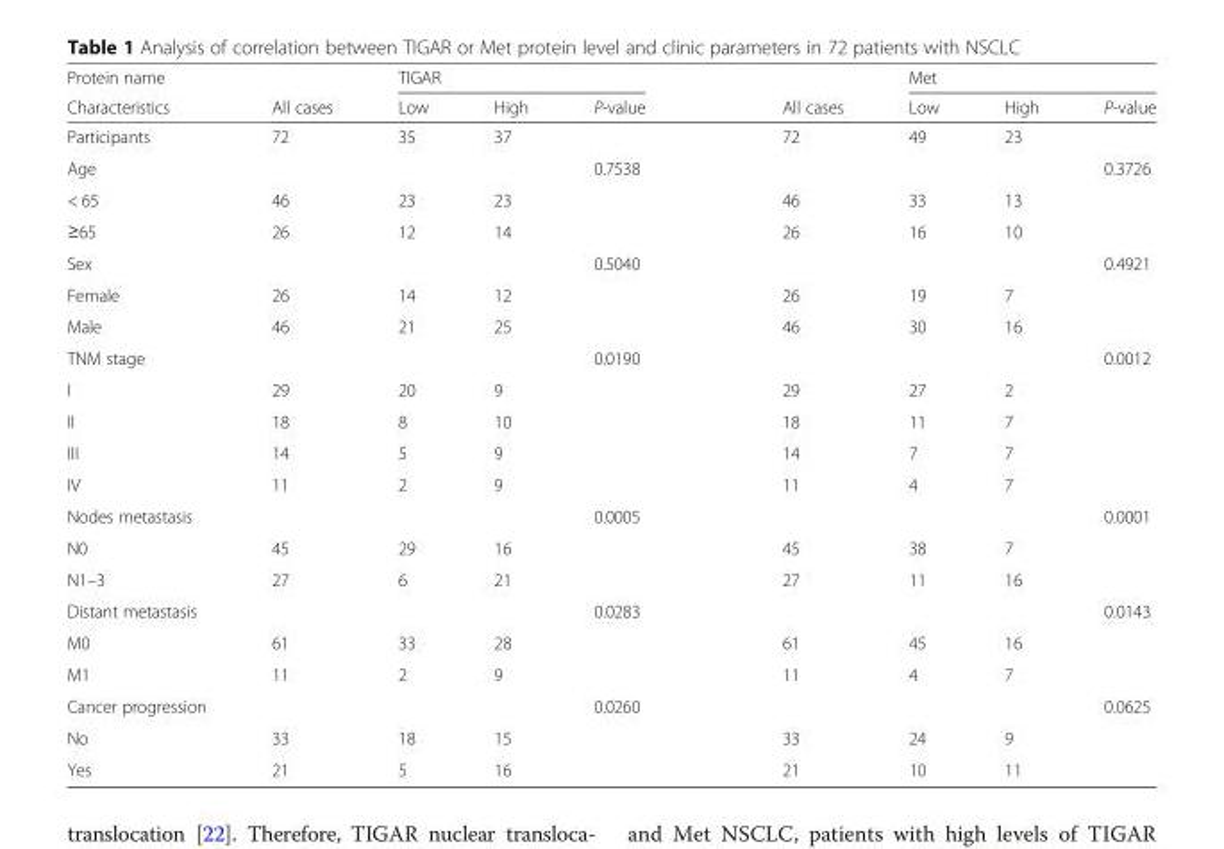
<table><thead><tr><td rowspan="2">Protein name Characteristics</td><td rowspan="2">All cases</td><td colspan="3">TIGAR</td><td rowspan="2">All cases</td><td colspan="3">Met</td></tr><tr><td>Low</td><td>High</td><td>P-value</td><td>Low</td><td>High</td><td>P-value</td></tr></thead><tbody><tr><td>Participants</td><td>72</td><td>35</td><td>37</td><td></td><td>72</td><td>49</td><td>23</td><td></td></tr><tr><td>Age</td><td></td><td></td><td></td><td>0.7538</td><td></td><td></td><td></td><td>0.3726</td></tr><tr><td>&lt; 65</td><td>46</td><td>23</td><td>23</td><td></td><td>46</td><td>33</td><td>13</td><td></td></tr><tr><td>≥65</td><td>26</td><td>12</td><td>14</td><td></td><td>26</td><td>16</td><td>10</td><td></td></tr><tr><td>Sex</td><td></td><td></td><td></td><td>0.5040</td><td></td><td></td><td></td><td>0.4921</td></tr><tr><td>Female</td><td>26</td><td>14</td><td>12</td><td></td><td>26</td><td>19</td><td>7</td><td></td></tr><tr><td>Male</td><td>46</td><td>21</td><td>25</td><td></td><td>46</td><td>30</td><td>16</td><td></td></tr><tr><td>TNM stage</td><td></td><td></td><td></td><td>0.0190</td><td></td><td></td><td></td><td>0.0012</td></tr><tr><td>I</td><td>29</td><td>20</td><td>9</td><td></td><td>29</td><td>27</td><td>2</td><td></td></tr><tr><td>II</td><td>18</td><td>8</td><td>10</td><td></td><td>18</td><td>11</td><td>7</td><td></td></tr><tr><td>III</td><td>14</td><td>5</td><td>9</td><td></td><td>14</td><td>7</td><td>7</td><td></td></tr><tr><td>IV</td><td>11</td><td>2</td><td>9</td><td></td><td>11</td><td>4</td><td>7</td><td></td></tr><tr><td>Nodes metastasis</td><td></td><td></td><td></td><td>0.0005</td><td></td><td></td><td></td><td>0.0001</td></tr><tr><td>N0</td><td>45</td><td>29</td><td>16</td><td></td><td>45</td><td>38</td><td>7</td><td></td></tr><tr><td>N1–3</td><td>27</td><td>6</td><td>21</td><td></td><td>27</td><td>11</td><td>16</td><td></td></tr><tr><td>Distant metastasis</td><td></td><td></td><td></td><td>0.0283</td><td></td><td></td><td></td><td>0.0143</td></tr><tr><td>M0</td><td>61</td><td>33</td><td>28</td><td></td><td>61</td><td>45</td><td>16</td><td></td></tr><tr><td>M1</td><td>11</td><td>2</td><td>9</td><td></td><td>11</td><td>4</td><td>7</td><td></td></tr><tr><td>Cancer progression</td><td></td><td></td><td></td><td>0.0260</td><td></td><td></td><td></td><td>0.0625</td></tr><tr><td>No</td><td>33</td><td>18</td><td>15</td><td></td><td>33</td><td>24</td><td>9</td><td></td></tr><tr><td>Yes</td><td>21</td><td>5</td><td>16</td><td></td><td>21</td><td>10</td><td>11</td><td></td></tr></tbody></table>